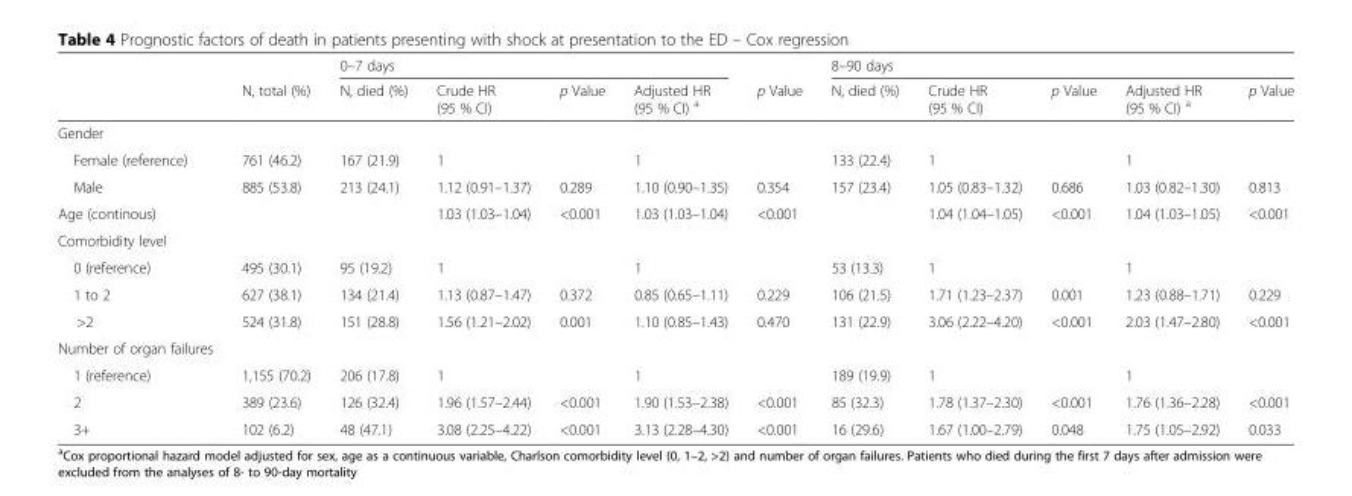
<table><thead><tr><td rowspan="2"></td><td rowspan="2">N, total (%)</td><td colspan="4">0–7 days</td><td rowspan="2">p Value</td><td colspan="5">8–90 days</td></tr><tr><td>N, died (%)</td><td>Crude HR (95 % CI)</td><td>p Value</td><td>Adjusted HR (95 % CI) <sup>a</sup></td><td>N, died (%)</td><td>Crude HR (95 % CI)</td><td>p Value</td><td>Adjusted HR (95 % CI) <sup>a</sup></td><td>p Value</td></tr></thead><tbody><tr><td colspan="12">Gender</td></tr><tr><td>Female (reference)</td><td>761 (46.2)</td><td>167 (21.9)</td><td>1</td><td></td><td>1</td><td></td><td>133 (22.4)</td><td>1</td><td></td><td>1</td><td></td></tr><tr><td>Male</td><td>885 (53.8)</td><td>213 (24.1)</td><td>1.12 (0.91–1.37)</td><td>0.289</td><td>1.10 (0.90–1.35)</td><td>0.354</td><td>157 (23.4)</td><td>1.05 (0.83–1.32)</td><td>0.686</td><td>1.03 (0.82–1.30)</td><td>0.813</td></tr><tr><td>Age (continous)</td><td></td><td></td><td>1.03 (1.03–1.04)</td><td>&lt;0.001</td><td>1.03 (1.03–1.04)</td><td>&lt;0.001</td><td></td><td>1.04 (1.04–1.05)</td><td>&lt;0.001</td><td>1.04 (1.03–1.05)</td><td>&lt;0.001</td></tr><tr><td colspan="12">Comorbidity level</td></tr><tr><td>0 (reference)</td><td>495 (30.1)</td><td>95 (19.2)</td><td>1</td><td></td><td>1</td><td></td><td>53 (13.3)</td><td>1</td><td></td><td>1</td><td></td></tr><tr><td>1 to 2</td><td>627 (38.1)</td><td>134 (21.4)</td><td>1.13 (0.87–1.47)</td><td>0.372</td><td>0.85 (0.65–1.11)</td><td>0.229</td><td>106 (21.5)</td><td>1.71 (1.23–2.37)</td><td>0.001</td><td>1.23 (0.88–1.71)</td><td>0.229</td></tr><tr><td>&gt;2</td><td>524 (31.8)</td><td>151 (28.8)</td><td>1.56 (1.21–2.02)</td><td>0.001</td><td>1.10 (0.85–1.43)</td><td>0.470</td><td>131 (22.9)</td><td>3.06 (2.22–4.20)</td><td>&lt;0.001</td><td>2.03 (1.47–2.80)</td><td>&lt;0.001</td></tr><tr><td colspan="12">Number of organ failures</td></tr><tr><td>1 (reference)</td><td>1,155 (70.2)</td><td>206 (17.8)</td><td>1</td><td></td><td>1</td><td></td><td>189 (19.9)</td><td>1</td><td></td><td>1</td><td></td></tr><tr><td>2</td><td>389 (23.6)</td><td>126 (32.4)</td><td>1.96 (1.57–2.44)</td><td>&lt;0.001</td><td>1.90 (1.53–2.38)</td><td>&lt;0.001</td><td>85 (32.3)</td><td>1.78 (1.37–2.30)</td><td>&lt;0.001</td><td>1.76 (1.36–2.28)</td><td>&lt;0.001</td></tr><tr><td>3+</td><td>102 (6.2)</td><td>48 (47.1)</td><td>3.08 (2.25–4.22)</td><td>&lt;0.001</td><td>3.13 (2.28–4.30)</td><td>&lt;0.001</td><td>16 (29.6)</td><td>1.67 (1.00–2.79)</td><td>0.048</td><td>1.75 (1.05–2.92)</td><td>0.033</td></tr></tbody></table>